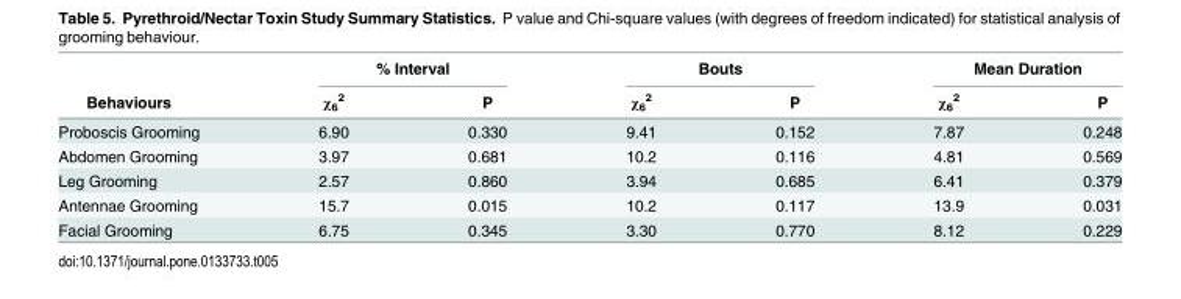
<table><thead><tr><td rowspan="2">Behaviours</td><td colspan="2">% Interval</td><td colspan="2">Bouts</td><td colspan="2">Mean Duration</td></tr><tr><td>χ<sub>6</sub> <sup>2</sup></td><td>P</td><td>χ<sub>6</sub> <sup>2</sup></td><td>P</td><td>χ<sub>6</sub> <sup>2</sup></td><td>P</td></tr></thead><tbody><tr><td>Proboscis Grooming</td><td>6.90</td><td>0.330</td><td>9.41</td><td>0.152</td><td>7.87</td><td>0.248</td></tr><tr><td>Abdomen Grooming</td><td>3.97</td><td>0.681</td><td>10.2</td><td>0.116</td><td>4.81</td><td>0.569</td></tr><tr><td>Leg Grooming</td><td>2.57</td><td>0.860</td><td>3.94</td><td>0.685</td><td>6.41</td><td>0.379</td></tr><tr><td>Antennae Grooming</td><td>15.7</td><td>0.015</td><td>10.2</td><td>0.117</td><td>13.9</td><td>0.031</td></tr><tr><td>Facial Grooming</td><td>6.75</td><td>0.345</td><td>3.30</td><td>0.770</td><td>8.12</td><td>0.229</td></tr></tbody></table>